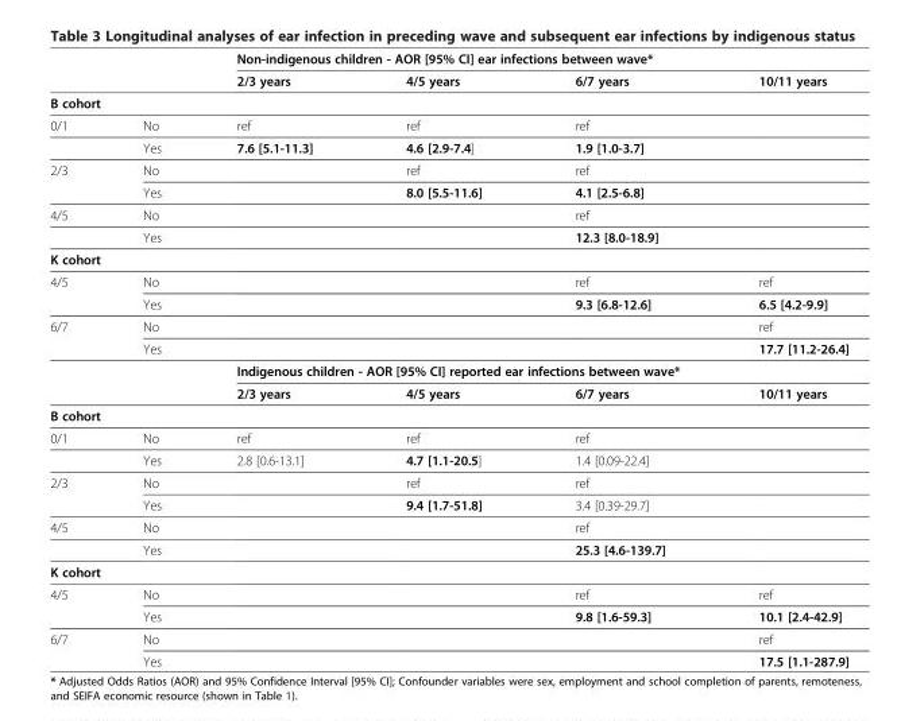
<table><thead><tr><td rowspan="2"></td><td rowspan="2"></td><td colspan="4">Non-indigenous children - AOR [95% CI] ear infections between wave*</td></tr><tr><td>2/3 years</td><td>4/5 years</td><td>6/7 years</td><td>10/11 years</td></tr></thead><tbody><tr><td colspan="6">B cohort</td></tr><tr><td rowspan="2">0/1</td><td>No</td><td>ref</td><td>ref</td><td>ref</td><td></td></tr><tr><td>Yes</td><td>7.6 [5.1-11.3]</td><td>4.6 [2.9-7.4]</td><td>1.9 [1.0-3.7]</td><td></td></tr><tr><td rowspan="2">2/3</td><td>No</td><td></td><td>ref</td><td>ref</td><td></td></tr><tr><td>Yes</td><td></td><td>8.0 [5.5-11.6]</td><td>4.1 [2.5-6.8]</td><td></td></tr><tr><td rowspan="2">4/5</td><td>No</td><td></td><td></td><td>ref</td><td></td></tr><tr><td>Yes</td><td></td><td></td><td>12.3 [8.0-18.9]</td><td></td></tr><tr><td colspan="6">K cohort</td></tr><tr><td rowspan="2">4/5</td><td>No</td><td></td><td></td><td>ref</td><td>ref</td></tr><tr><td>Yes</td><td></td><td></td><td>9.3 [6.8-12.6]</td><td>6.5 [4.2-9.9]</td></tr><tr><td rowspan="2">6/7</td><td>No</td><td></td><td></td><td></td><td>ref</td></tr><tr><td>Yes</td><td></td><td></td><td></td><td>17.7 [11.2-26.4]</td></tr><tr><td rowspan="2" colspan="2"></td><td colspan="4">Indigenous children - AOR [95% CI] reported ear infections between wave*</td></tr><tr><td>2/3 years</td><td>4/5 years</td><td>6/7 years</td><td>10/11 years</td></tr><tr><td colspan="6">B cohort</td></tr><tr><td rowspan="2">0/1</td><td>No</td><td>ref</td><td>ref</td><td>ref</td><td></td></tr><tr><td>Yes</td><td>2.8 [0.6-13.1]</td><td>4.7 [1.1-20.5]</td><td>1.4 [0.09-22.4]</td><td></td></tr><tr><td rowspan="2">2/3</td><td>No</td><td></td><td>ref</td><td>ref</td><td></td></tr><tr><td>Yes</td><td></td><td>9.4 [1.7-51.8]</td><td>3.4 [0.39-29.7]</td><td></td></tr><tr><td rowspan="2">4/5</td><td>No</td><td></td><td></td><td>ref</td><td></td></tr><tr><td>Yes</td><td></td><td></td><td>25.3 [4.6-139.7]</td><td></td></tr><tr><td colspan="6">K cohort</td></tr><tr><td rowspan="2">4/5</td><td>No</td><td></td><td></td><td>ref</td><td>ref</td></tr><tr><td>Yes</td><td></td><td></td><td>9.8 [1.6-59.3]</td><td>10.1 [2.4-42.9]</td></tr><tr><td rowspan="2">6/7</td><td>No</td><td></td><td></td><td></td><td>ref</td></tr><tr><td>Yes</td><td></td><td></td><td></td><td>17.5 [1.1-287.9]</td></tr></tbody></table>